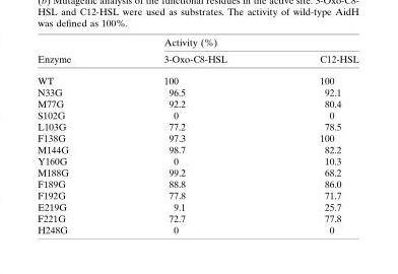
<table><thead><tr><td rowspan="2">Enzyme</td><td colspan="2">Activity (%)</td></tr><tr><td>3-Oxo-C8-HSL</td><td>C12-HSL</td></tr></thead><tbody><tr><td>WT</td><td>100</td><td>100</td></tr><tr><td>N33G</td><td>96.5</td><td>92.1</td></tr><tr><td>M77G</td><td>92.2</td><td>80.4</td></tr><tr><td>S102G</td><td>0</td><td>0</td></tr><tr><td>L103G</td><td>77.2</td><td>78.5</td></tr><tr><td>F138G</td><td>97.3</td><td>100</td></tr><tr><td>M144G</td><td>98.7</td><td>82.2</td></tr><tr><td>Y160G</td><td>0</td><td>10.3</td></tr><tr><td>M188G</td><td>99.2</td><td>68.2</td></tr><tr><td>F189G</td><td>88.8</td><td>86.0</td></tr><tr><td>F192G</td><td>77.8</td><td>71.7</td></tr><tr><td>E219G</td><td>9.1</td><td>25.7</td></tr><tr><td>F221G</td><td>72.7</td><td>77.8</td></tr><tr><td>H248G</td><td>0</td><td>0</td></tr></tbody></table>